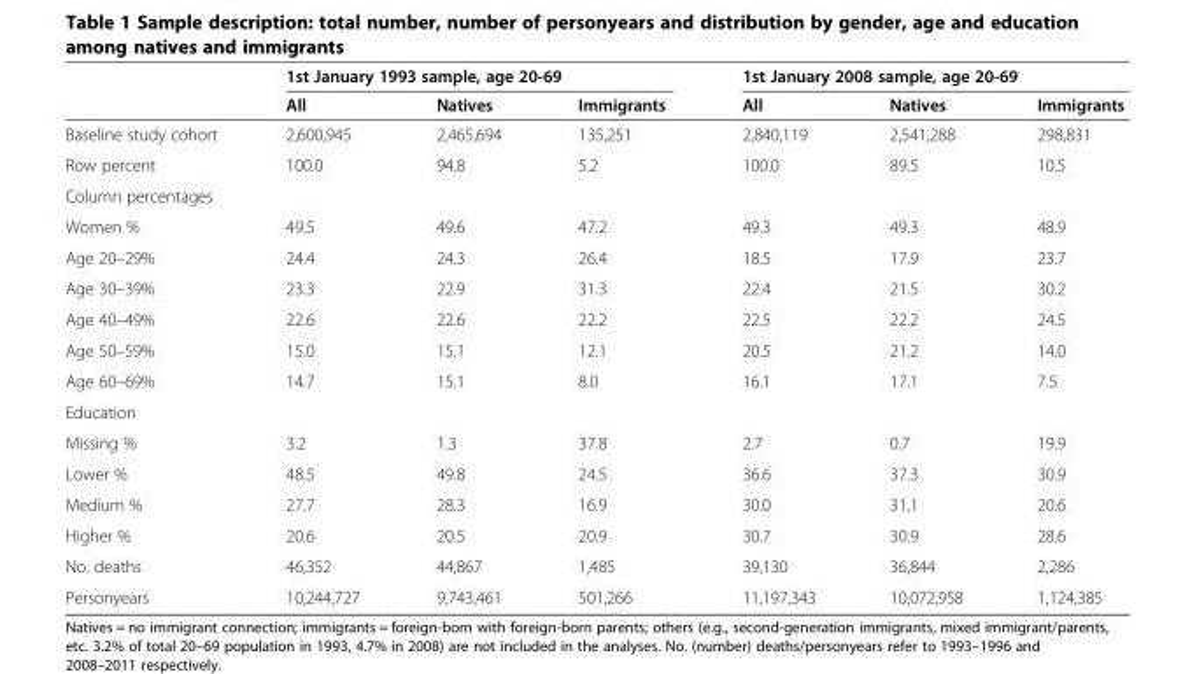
<table><thead><tr><td rowspan="2"></td><td colspan="3">1st January 1993 sample, age 20-69</td><td colspan="3">1st January 2008 sample, age 20-69</td></tr><tr><td>All</td><td>Natives</td><td>Immigrants</td><td>All</td><td>Natives</td><td>Immigrants</td></tr></thead><tbody><tr><td>Baseline study cohort</td><td>2,600,945</td><td>2,465,694</td><td>135,251</td><td>2,840,119</td><td>2,541,288</td><td>298,831</td></tr><tr><td>Row percent</td><td>100.0</td><td>94.8</td><td>5.2</td><td>100.0</td><td>89.5</td><td>10.5</td></tr><tr><td colspan="7">Column percentages</td></tr><tr><td>Women %</td><td>49.5</td><td>49.6</td><td>47.2</td><td>49.3</td><td>49.3</td><td>48.9</td></tr><tr><td>Age 20–29%</td><td>24.4</td><td>24.3</td><td>26.4</td><td>18.5</td><td>17.9</td><td>23.7</td></tr><tr><td>Age 30–39%</td><td>23.3</td><td>22.9</td><td>31.3</td><td>22.4</td><td>21.5</td><td>30.2</td></tr><tr><td>Age 40–49%</td><td>22.6</td><td>22.6</td><td>22.2</td><td>22.5</td><td>22.2</td><td>24.5</td></tr><tr><td>Age 50–59%</td><td>15.0</td><td>15.1</td><td>12.1</td><td>20.5</td><td>21.2</td><td>14.0</td></tr><tr><td>Age 60–69%</td><td>14.7</td><td>15.1</td><td>8.0</td><td>16.1</td><td>17.1</td><td>7.5</td></tr><tr><td colspan="7">Education</td></tr><tr><td>Missing %</td><td>3.2</td><td>1.3</td><td>37.8</td><td>2.7</td><td>0.7</td><td>19.9</td></tr><tr><td>Lower %</td><td>48.5</td><td>49.8</td><td>24.5</td><td>36.6</td><td>37.3</td><td>30.9</td></tr><tr><td>Medium %</td><td>27.7</td><td>28.3</td><td>16.9</td><td>30.0</td><td>31.1</td><td>20.6</td></tr><tr><td>Higher %</td><td>20.6</td><td>20.5</td><td>20.9</td><td>30.7</td><td>30.9</td><td>28.6</td></tr><tr><td>No. deaths</td><td>46,352</td><td>44,867</td><td>1,485</td><td>39,130</td><td>36,844</td><td>2,286</td></tr><tr><td>Personyears</td><td>10,244,727</td><td>9,743,461</td><td>501,266</td><td>11,197,343</td><td>10,072,958</td><td>1,124,385</td></tr></tbody></table>